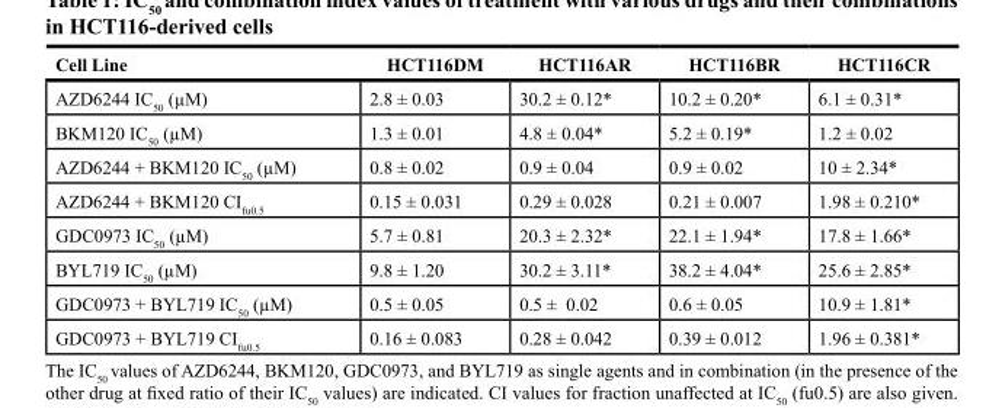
<table><thead><tr><td>Cell Line</td><td>HCT116DM</td><td>HCT116AR</td><td>HCT116BR</td><td>HCT116CR</td></tr></thead><tbody><tr><td>AZD6244 IC<sub>50</sub> (µM)</td><td>2.8 ± 0.03</td><td>30.2 ± 0.12*</td><td>10.2 ± 0.20*</td><td>6.1 ± 0.31*</td></tr><tr><td>BKM120 IC<sub>50</sub> (µM)</td><td>1.3 ± 0.01</td><td>4.8 ± 0.04*</td><td>5.2 ± 0.19*</td><td>1.2 ± 0.02</td></tr><tr><td>AZD6244 + BKM120 IC<sub>50</sub> (µM)</td><td>0.8 ± 0.02</td><td>0.9 ± 0.04</td><td>0.9 ± 0.02</td><td>10 ± 2.34*</td></tr><tr><td>AZD6244 + BKM120 CI<sub>fu0.5</sub></td><td>0.15 ± 0.031</td><td>0.29 ± 0.028</td><td>0.21 ± 0.007</td><td>1.98 ± 0.210*</td></tr><tr><td>GDC0973 IC<sub>50</sub> (µM)</td><td>5.7 ± 0.81</td><td>20.3 ± 2.32*</td><td>22.1 ± 1.94*</td><td>17.8 ± 1.66*</td></tr><tr><td>BYL719 IC<sub>50</sub> (µM)</td><td>9.8 ± 1.20</td><td>30.2 ± 3.11*</td><td>38.2 ± 4.04*</td><td>25.6 ± 2.85*</td></tr><tr><td>GDC0973 + BYL719 IC<sub>50</sub> (µM)</td><td>0.5 ± 0.05</td><td>0.5 ± 0.02</td><td>0.6 ± 0.05</td><td>10.9 ± 1.81*</td></tr><tr><td>GDC0973 + BYL719 CI<sub>fu0.5</sub></td><td>0.16 ± 0.083</td><td>0.28 ± 0.042</td><td>0.39 ± 0.012</td><td>1.96 ± 0.381*</td></tr></tbody></table>